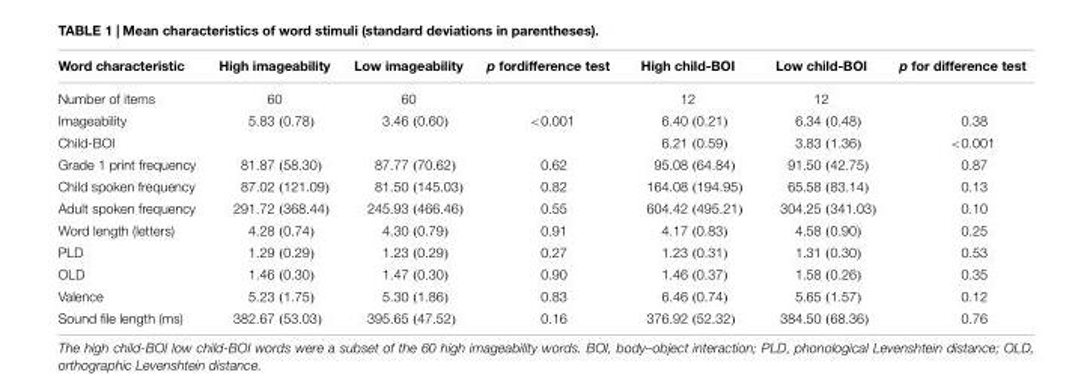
<table><thead><tr><td>Word characteristic</td><td>High imageability</td><td>Low imageability</td><td>p fordifference test</td><td>High child-BOI</td><td>Low child-BOI</td><td>p for difference test</td></tr></thead><tbody><tr><td>Number of items</td><td>60</td><td>60</td><td></td><td>12</td><td>12</td><td></td></tr><tr><td>Imageability</td><td>5.83 (0.78)</td><td>3.46 (0.60)</td><td>&lt;0.001</td><td>6.40 (0.21)</td><td>6.34 (0.48)</td><td>0.38</td></tr><tr><td>Child-BOI</td><td></td><td></td><td></td><td>6.21 (0.59)</td><td>3.83 (1.36)</td><td>&lt;0.001</td></tr><tr><td>Grade 1 print frequency</td><td>81.87 (58.30)</td><td>87.77 (70.62)</td><td>0.62</td><td>95.08 (64.84)</td><td>91.50 (42.75)</td><td>0.87</td></tr><tr><td>Child spoken frequency</td><td>87.02 (121.09)</td><td>81.50 (145.03)</td><td>0.82</td><td>164.08 (194.95)</td><td>65.58 (83.14)</td><td>0.13</td></tr><tr><td>Adult spoken frequency</td><td>291.72 (368.44)</td><td>245.93 (466.46)</td><td>0.55</td><td>604.42 (495.21)</td><td>304.25 (341.03)</td><td>0.10</td></tr><tr><td>Word length (letters)</td><td>4.28 (0.74)</td><td>4.30 (0.79)</td><td>0.91</td><td>4.17 (0.83)</td><td>4.58 (0.90)</td><td>0.25</td></tr><tr><td>PLD</td><td>1.29 (0.29)</td><td>1.23 (0.29)</td><td>0.27</td><td>1.23 (0.31)</td><td>1.31 (0.30)</td><td>0.53</td></tr><tr><td>OLD</td><td>1.46 (0.30)</td><td>1.47 (0.30)</td><td>0.90</td><td>1.46 (0.37)</td><td>1.58 (0.26)</td><td>0.35</td></tr><tr><td>Valence</td><td>5.23 (1.75)</td><td>5.30 (1.86)</td><td>0.83</td><td>6.46 (0.74)</td><td>5.65 (1.57)</td><td>0.12</td></tr><tr><td>Sound file length (ms)</td><td>382.67 (53.03)</td><td>395.65 (47.52)</td><td>0.16</td><td>376.92 (52.32)</td><td>384.50 (68.36)</td><td>0.76</td></tr></tbody></table>